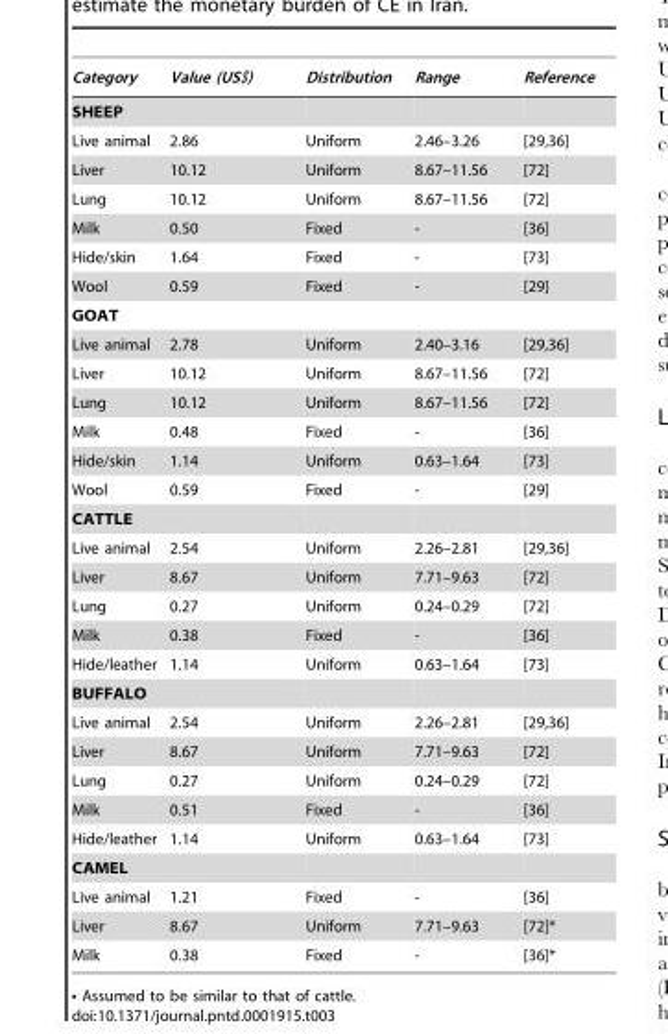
<table><thead><tr><td>Category</td><td>Value (US$)</td><td>Distribution</td><td>Range</td><td>Reference</td></tr></thead><tbody><tr><td colspan="5">SHEEP</td></tr><tr><td>Live animal</td><td>2.86</td><td>Uniform</td><td>2.46–3.26</td><td>[29,36]</td></tr><tr><td>Liver</td><td>10.12</td><td>Uniform</td><td>8.67–11.56</td><td>[72]</td></tr><tr><td>Lung</td><td>10.12</td><td>Uniform</td><td>8.67–11.56</td><td>[72]</td></tr><tr><td>Milk</td><td>0.50</td><td>Fixed</td><td>-</td><td>[36]</td></tr><tr><td>Hide/skin</td><td>1.64</td><td>Fixed</td><td>-</td><td>[73]</td></tr><tr><td>Wool</td><td>0.59</td><td>Fixed</td><td>-</td><td>[29]</td></tr><tr><td colspan="5">GOAT</td></tr><tr><td>Live animal</td><td>2.78</td><td>Uniform</td><td>2.40–3.16</td><td>[29,36]</td></tr><tr><td>Liver</td><td>10.12</td><td>Uniform</td><td>8.67–11.56</td><td>[72]</td></tr><tr><td>Lung</td><td>10.12</td><td>Uniform</td><td>8.67–11.56</td><td>[72]</td></tr><tr><td>Milk</td><td>0.48</td><td>Fixed</td><td>-</td><td>[36]</td></tr><tr><td>Hide/skin</td><td>1.14</td><td>Uniform</td><td>0.63–1.64</td><td>[73]</td></tr><tr><td>Wool</td><td>0.59</td><td>Fixed</td><td>-</td><td>[29]</td></tr><tr><td colspan="5">CATTLE</td></tr><tr><td>Live animal</td><td>2.54</td><td>Uniform</td><td>2.26–2.81</td><td>[29,36]</td></tr><tr><td>Liver</td><td>8.67</td><td>Uniform</td><td>7.71–9.63</td><td>[72]</td></tr><tr><td>Lung</td><td>0.27</td><td>Uniform</td><td>0.24–0.29</td><td>[72]</td></tr><tr><td>Milk</td><td>0.38</td><td>Fixed</td><td>-</td><td>[36]</td></tr><tr><td>Hide/leather</td><td>1.14</td><td>Uniform</td><td>0.63–1.64</td><td>[73]</td></tr><tr><td colspan="5">BUFFALO</td></tr><tr><td>Live animal</td><td>2.54</td><td>Uniform</td><td>2.26–2.81</td><td>[29,36]</td></tr><tr><td>Liver</td><td>8.67</td><td>Uniform</td><td>7.71–9.63</td><td>[72]</td></tr><tr><td>Lung</td><td>0.27</td><td>Uniform</td><td>0.24–0.29</td><td>[72]</td></tr><tr><td>Milk</td><td>0.51</td><td>Fixed</td><td>-</td><td>[36]</td></tr><tr><td>Hide/leather</td><td>1.14</td><td>Uniform</td><td>0.63–1.64</td><td>[73]</td></tr><tr><td colspan="5">CAMEL</td></tr><tr><td>Live animal</td><td>1.21</td><td>Fixed</td><td>-</td><td>[36]</td></tr><tr><td>Liver</td><td>8.67</td><td>Uniform</td><td>7.71–9.63</td><td>[72]*</td></tr><tr><td>Milk</td><td>0.38</td><td>Fixed</td><td>-</td><td>[36]*</td></tr></tbody></table>